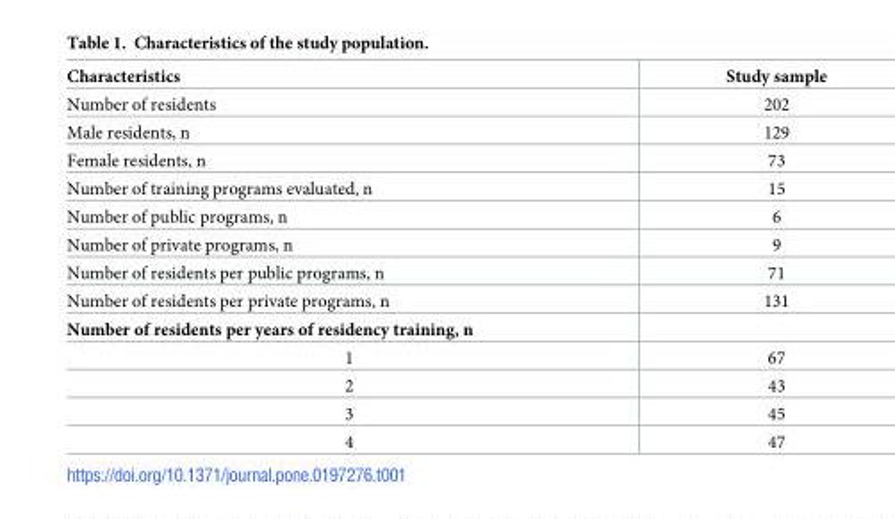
<table><thead><tr><td>Characteristics</td><td>Study sample</td></tr></thead><tbody><tr><td>Number of residents</td><td>202</td></tr><tr><td>Male residents, n</td><td>129</td></tr><tr><td>Female residents, n</td><td>73</td></tr><tr><td>Number of training programs evaluated, n</td><td>15</td></tr><tr><td>Number of public programs, n</td><td>6</td></tr><tr><td>Number of private programs, n</td><td>9</td></tr><tr><td>Number of residents per public programs, n</td><td>71</td></tr><tr><td>Number of residents per private programs, n</td><td>131</td></tr><tr><td colspan="2">Number of residents per years of residency training, n</td></tr><tr><td>1</td><td>67</td></tr><tr><td>2</td><td>43</td></tr><tr><td>3</td><td>45</td></tr><tr><td>4</td><td>47</td></tr></tbody></table>